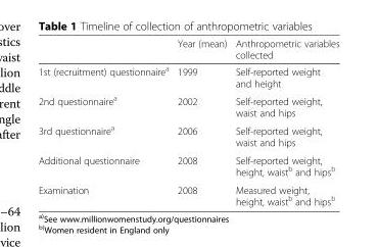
<table><thead><tr><td></td><td>Year (mean)</td><td>Anthropometric variables collected</td></tr></thead><tbody><tr><td>1st (recruitment) questionnaire<sup>a</sup></td><td>1999</td><td>Self-reported weight and height</td></tr><tr><td>2nd questionnaire<sup>a</sup></td><td>2002</td><td>Self-reported weight, waist and hips</td></tr><tr><td>3rd questionnaire<sup>a</sup></td><td>2006</td><td>Self-reported weight, waist and hips</td></tr><tr><td>Additional questionnaire</td><td>2008</td><td>Self-reported weight, height, waist<sup>b</sup> and hips<sup>b</sup></td></tr><tr><td>Examination</td><td>2008</td><td>Measured weight, height, waist<sup>b</sup> and hips<sup>b</sup></td></tr></tbody></table>